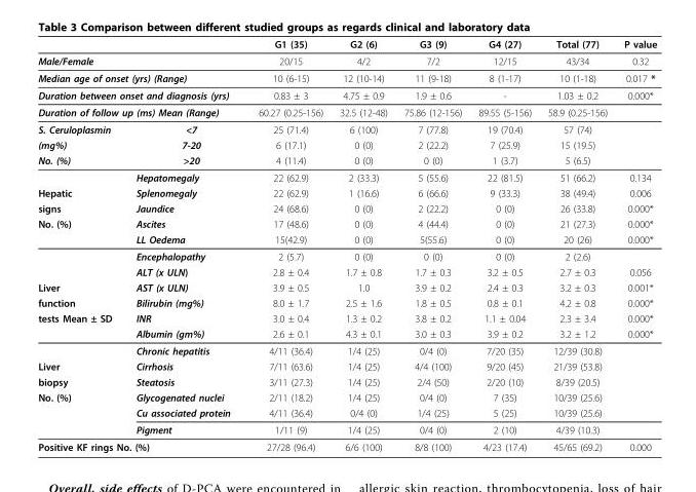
<table><thead><tr><td></td><td></td><td>G1 (35)</td><td>G2 (6)</td><td>G3 (9)</td><td>G4 (27)</td><td>Total (77)</td><td>P value</td></tr></thead><tbody><tr><td colspan="2">Male/Female</td><td>20/15</td><td>4/2</td><td>7/2</td><td>12/15</td><td>43/34</td><td>0.32</td></tr><tr><td colspan="2">Median age of onset (yrs) (Range)</td><td>10 (6-15)</td><td>12 (10-14)</td><td>11 (9-18)</td><td>8 (1-17)</td><td>10 (1-18)</td><td>0.017 *</td></tr><tr><td colspan="2">Duration between onset and diagnosis (yrs)</td><td>0.83 ± 3</td><td>4.75 ± 0.9</td><td>1.9 ± 0.6</td><td>-</td><td>1.03 ± 0.2</td><td>0.000*</td></tr><tr><td colspan="2">Duration of follow up (ms) Mean (Range)</td><td>60.27 (0.25-156)</td><td>32.5 (12-48)</td><td>75.86 (12-156)</td><td>89.55 (5-156)</td><td>58.9 (0.25-156)</td><td></td></tr><tr><td>S. Ceruloplasmin</td><td>&lt;7</td><td>25 (71.4)</td><td>6 (100)</td><td>7 (77.8)</td><td>19 (70.4)</td><td>57 (74)</td><td></td></tr><tr><td>(mg%)</td><td>7-20</td><td>6 (17.1)</td><td>0 (0)</td><td>2 (22.2)</td><td>7 (25.9)</td><td>15 (19.5)</td><td></td></tr><tr><td rowspan="2">No. (%)</td><td>&gt;20</td><td>4 (11.4)</td><td>0 (0)</td><td>0 (0)</td><td>1 (3.7)</td><td>5 (6.5)</td><td></td></tr><tr><td>Hepatomegaly</td><td>22 (62.9)</td><td>2 (33.3)</td><td>5 (55.6)</td><td>22 (81.5)</td><td>51 (66.2)</td><td>0.134</td></tr><tr><td>Hepatic</td><td>Splenomegaly</td><td>22 (62.9)</td><td>1 (16.6)</td><td>6 (66.6)</td><td>9 (33.3)</td><td>38 (49.4)</td><td>0.006</td></tr><tr><td>signs</td><td>Jaundice</td><td>24 (68.6)</td><td>0 (0)</td><td>2 (22.2)</td><td>0 (0)</td><td>26 (33.8)</td><td>0.000*</td></tr><tr><td rowspan="4">No. (%)</td><td>Ascites</td><td>17 (48.6)</td><td>0 (0)</td><td>4 (44.4)</td><td>0 (0)</td><td>21 (27.3)</td><td>0.000*</td></tr><tr><td>LL Oedema</td><td>15(42.9)</td><td>0 (0)</td><td>5(55.6)</td><td>0 (0)</td><td>20 (26)</td><td>0.000*</td></tr><tr><td>Encephalopathy</td><td>2 (5.7)</td><td>0 (0)</td><td>0 (0)</td><td>0 (0)</td><td>2 (2.6)</td><td></td></tr><tr><td>ALT (x ULN)</td><td>2.8 ± 0.4</td><td>1.7 ± 0.8</td><td>1.7 ± 0.3</td><td>3.2 ± 0.5</td><td>2.7 ± 0.3</td><td>0.056</td></tr><tr><td>Liver</td><td>AST (x ULN)</td><td>3.9 ± 0.5</td><td>1.0</td><td>3.9 ± 0.2</td><td>2.4 ± 0.3</td><td>3.2 ± 0.3</td><td>0.001*</td></tr><tr><td>function</td><td>Bilirubin (mg%)</td><td>8.0 ± 1.7</td><td>2.5 ± 1.6</td><td>1.8 ± 0.5</td><td>0.8 ± 0.1</td><td>4.2 ± 0.8</td><td>0.000*</td></tr><tr><td rowspan="3">tests Mean ± SD</td><td>INR</td><td>3.0 ± 0.4</td><td>1.3 ± 0.2</td><td>3.8 ± 0.2</td><td>1.1 ± 0.04</td><td>2.3 ± 3.4</td><td>0.000*</td></tr><tr><td>Albumin (gm%)</td><td>2.6 ± 0.1</td><td>4.3 ± 0.1</td><td>3.0 ± 0.3</td><td>3.9 ± 0.2</td><td>3.2 ± 1.2</td><td>0.000*</td></tr><tr><td>Chronic hepatitis</td><td>4/11 (36.4)</td><td>1/4 (25)</td><td>0/4 (0)</td><td>7/20 (35)</td><td>12/39 (30.8)</td><td></td></tr><tr><td>Liver</td><td>Cirrhosis</td><td>7/11 (63.6)</td><td>1/4 (25)</td><td>4/4 (100)</td><td>9/20 (45)</td><td>21/39 (53.8)</td><td></td></tr><tr><td>biopsy</td><td>Steatosis</td><td>3/11 (27.3)</td><td>1/4 (25)</td><td>2/4 (50)</td><td>2/20 (10)</td><td>8/39 (20.5)</td><td></td></tr><tr><td rowspan="3">No. (%)</td><td>Glycogenated nuclei</td><td>2/11 (18.2)</td><td>1/4 (25)</td><td>0/4 (0)</td><td>7 (35)</td><td>10/39 (25.6)</td><td></td></tr><tr><td>Cu associated protein</td><td>4/11 (36.4)</td><td>0/4 (0)</td><td>1/4 (25)</td><td>5 (25)</td><td>10/39 (25.6)</td><td></td></tr><tr><td>Pigment</td><td>1/11 (9)</td><td>1/4 (25)</td><td>0/4 (0)</td><td>2 (10)</td><td>4/39 (10.3)</td><td></td></tr><tr><td colspan="2">Positive KF rings No. (%)</td><td>27/28 (96.4)</td><td>6/6 (100)</td><td>8/8 (100)</td><td>4/23 (17.4)</td><td>45/65 (69.2)</td><td>0.000</td></tr></tbody></table>